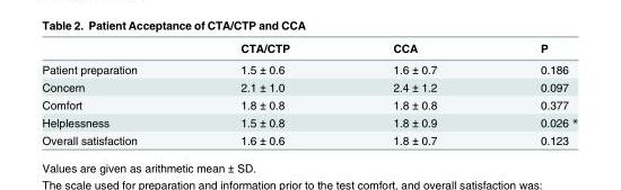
<table><thead><tr><td></td><td>CTA/CTP</td><td>CCA</td><td>P</td></tr></thead><tbody><tr><td>Patient preparation</td><td>1.5 ± 0.6</td><td>1.6 ± 0.7</td><td>0.186</td></tr><tr><td>Concern</td><td>2.1 ± 1.0</td><td>2.4 ± 1.2</td><td>0.097</td></tr><tr><td>Comfort</td><td>1.8 ± 0.8</td><td>1.8 ± 0.8</td><td>0.377</td></tr><tr><td>Helplessness</td><td>1.5 ± 0.8</td><td>1.8 ± 0.9</td><td>0.026 *</td></tr><tr><td>Overall satisfaction</td><td>1.6 ± 0.6</td><td>1.8 ± 0.7</td><td>0.123</td></tr></tbody></table>